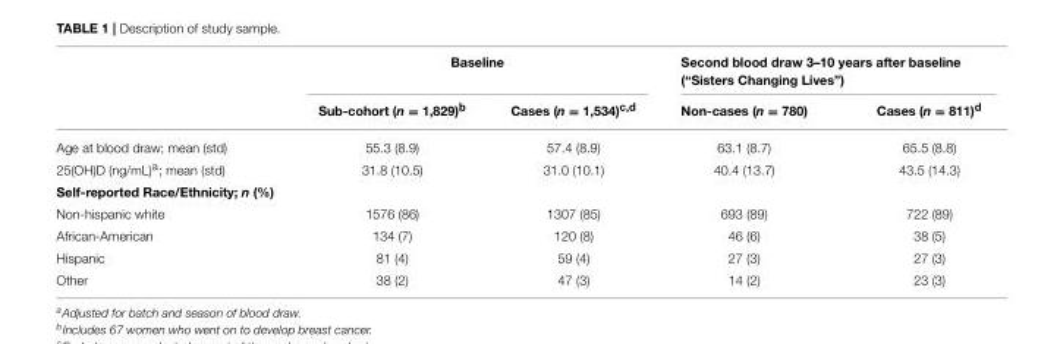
<table><thead><tr><td rowspan="2"></td><td colspan="2">Baseline</td><td colspan="2">Second blood draw 3–10 years after baseline (“Sisters Changing Lives”)</td></tr><tr><td>Sub-cohort (n = 1,829)<sup>b</sup></td><td>Cases (n = 1,534)<sup>c,d</sup></td><td>Non-cases (n = 780)</td><td>Cases (n = 811)<sup>d</sup></td></tr></thead><tbody><tr><td>Age at blood draw; mean (std)</td><td>55.3 (8.9)</td><td>57.4 (8.9)</td><td>63.1 (8.7)</td><td>65.5 (8.8)</td></tr><tr><td>25(OH)D (ng/mL)<sup>a</sup>; mean (std)</td><td>31.8 (10.5)</td><td>31.0 (10.1)</td><td>40.4 (13.7)</td><td>43.5 (14.3)</td></tr><tr><td colspan="5">Self-reported Race/Ethnicity; n (%)</td></tr><tr><td>Non-hispanic white</td><td>1576 (86)</td><td>1307 (85)</td><td>693 (89)</td><td>722 (89)</td></tr><tr><td>African-American</td><td>134 (7)</td><td>120 (8)</td><td>46 (6)</td><td>38 (5)</td></tr><tr><td>Hispanic</td><td>81 (4)</td><td>59 (4)</td><td>27 (3)</td><td>27 (3)</td></tr><tr><td>Other</td><td>38 (2)</td><td>47 (3)</td><td>14 (2)</td><td>23 (3)</td></tr></tbody></table>